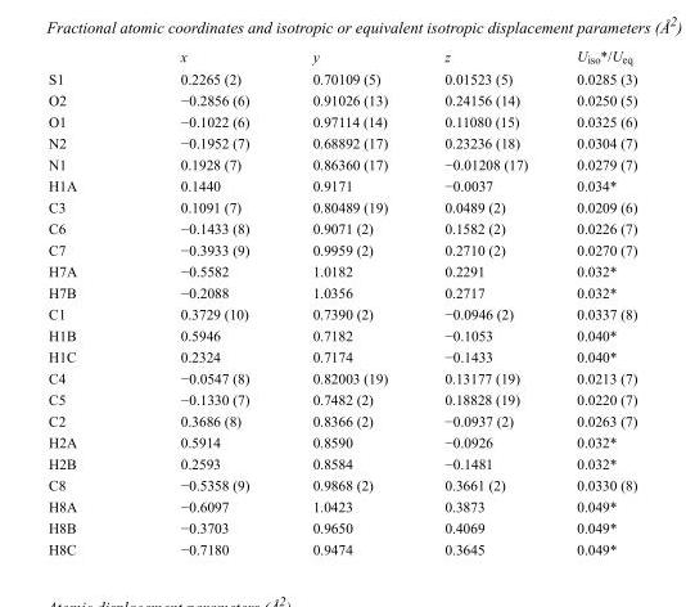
<table><thead><tr><td></td><td>x</td><td>y</td><td>z</td><td>U<sub>iso</sub>*/U<sub>eq</sub></td></tr></thead><tbody><tr><td>S1</td><td>0.2265 (2)</td><td>0.70109 (5)</td><td>0.01523 (5)</td><td>0.0285 (3)</td></tr><tr><td>O2</td><td>−0.2856 (6)</td><td>0.91026 (13)</td><td>0.24156 (14)</td><td>0.0250 (5)</td></tr><tr><td>O1</td><td>−0.1022 (6)</td><td>0.97114 (14)</td><td>0.11080 (15)</td><td>0.0325 (6)</td></tr><tr><td>N2</td><td>−0.1952 (7)</td><td>0.68892 (17)</td><td>0.23236 (18)</td><td>0.0304 (7)</td></tr><tr><td>N1</td><td>0.1928 (7)</td><td>0.86360 (17)</td><td>−0.01208 (17)</td><td>0.0279 (7)</td></tr><tr><td>H1A</td><td>0.1440</td><td>0.9171</td><td>−0.0037</td><td>0.034*</td></tr><tr><td>C3</td><td>0.1091 (7)</td><td>0.80489 (19)</td><td>0.0489 (2)</td><td>0.0209 (6)</td></tr><tr><td>C6</td><td>−0.1433 (8)</td><td>0.9071 (2)</td><td>0.1582 (2)</td><td>0.0226 (7)</td></tr><tr><td>C7</td><td>−0.3933 (9)</td><td>0.9959 (2)</td><td>0.2710 (2)</td><td>0.0270 (7)</td></tr><tr><td>H7A</td><td>−0.5582</td><td>1.0182</td><td>0.2291</td><td>0.032*</td></tr><tr><td>H7B</td><td>−0.2088</td><td>1.0356</td><td>0.2717</td><td>0.032*</td></tr><tr><td>C1</td><td>0.3729 (10)</td><td>0.7390 (2)</td><td>−0.0946 (2)</td><td>0.0337 (8)</td></tr><tr><td>H1B</td><td>0.5946</td><td>0.7182</td><td>−0.1053</td><td>0.040*</td></tr><tr><td>H1C</td><td>0.2324</td><td>0.7174</td><td>−0.1433</td><td>0.040*</td></tr><tr><td>C4</td><td>−0.0547 (8)</td><td>0.82003 (19)</td><td>0.13177 (19)</td><td>0.0213 (7)</td></tr><tr><td>C5</td><td>−0.1330 (7)</td><td>0.7482 (2)</td><td>0.18828 (19)</td><td>0.0220 (7)</td></tr><tr><td>C2</td><td>0.3686 (8)</td><td>0.8366 (2)</td><td>−0.0937 (2)</td><td>0.0263 (7)</td></tr><tr><td>H2A</td><td>0.5914</td><td>0.8590</td><td>−0.0926</td><td>0.032*</td></tr><tr><td>H2B</td><td>0.2593</td><td>0.8584</td><td>−0.1481</td><td>0.032*</td></tr><tr><td>C8</td><td>−0.5358 (9)</td><td>0.9868 (2)</td><td>0.3661 (2)</td><td>0.0330 (8)</td></tr><tr><td>H8A</td><td>−0.6097</td><td>1.0423</td><td>0.3873</td><td>0.049*</td></tr><tr><td>H8B</td><td>−0.3703</td><td>0.9650</td><td>0.4069</td><td>0.049*</td></tr><tr><td>H8C</td><td>−0.7180</td><td>0.9474</td><td>0.3645</td><td>0.049*</td></tr></tbody></table>